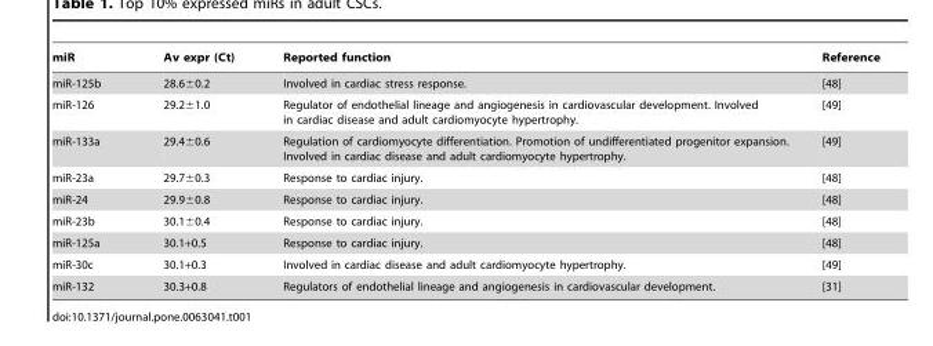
<table><thead><tr><td>miR</td><td>Av expr (Ct)</td><td>Reported function</td><td>Reference</td></tr></thead><tbody><tr><td>miR-125b</td><td>28.6±0.2</td><td>Involved in cardiac stress response.</td><td>[48]</td></tr><tr><td>miR-126</td><td>29.2±1.0</td><td>Regulator of endothelial lineage and angiogenesis in cardiovascular development. Involved in cardiac disease and adult cardiomyocyte hypertrophy.</td><td>[49]</td></tr><tr><td>miR-133a</td><td>29.4±0.6</td><td>Regulation of cardiomyocyte differentiation. Promotion of undifferentiated progenitor expansion. Involved in cardiac disease and adult cardiomyocyte hypertrophy.</td><td>[49]</td></tr><tr><td>miR-23a</td><td>29.7±0.3</td><td>Response to cardiac injury.</td><td>[48]</td></tr><tr><td>miR-24</td><td>29.9±0.8</td><td>Response to cardiac injury.</td><td>[48]</td></tr><tr><td>miR-23b</td><td>30.1±0.4</td><td>Response to cardiac injury.</td><td>[48]</td></tr><tr><td>miR-125a</td><td>30.1+0.5</td><td>Response to cardiac injury.</td><td>[48]</td></tr><tr><td>miR-30c</td><td>30.1+0.3</td><td>Involved in cardiac disease and adult cardiomyocyte hypertrophy.</td><td>[49]</td></tr><tr><td>miR-132</td><td>30.3+0.8</td><td>Regulators of endothelial lineage and angiogenesis in cardiovascular development.</td><td>[31]</td></tr></tbody></table>